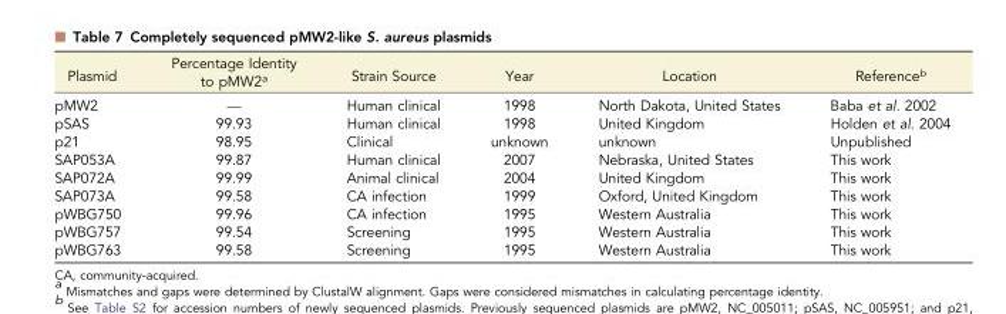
<table><thead><tr><td>Plasmid</td><td>Percentage Identity to pMW2<sup>a</sup></td><td>Strain Source</td><td>Year</td><td>Location</td><td>Reference<sup>b</sup></td></tr></thead><tbody><tr><td>pMW2</td><td>—</td><td>Human clinical</td><td>1998</td><td>North Dakota, United States</td><td>Baba et al. 2002</td></tr><tr><td>pSAS</td><td>99.93</td><td>Human clinical</td><td>1998</td><td>United Kingdom</td><td>Holden et al. 2004</td></tr><tr><td>p21</td><td>98.95</td><td>Clinical</td><td>unknown</td><td>unknown</td><td>Unpublished</td></tr><tr><td>SAP053A</td><td>99.87</td><td>Human clinical</td><td>2007</td><td>Nebraska, United States</td><td>This work</td></tr><tr><td>SAP072A</td><td>99.99</td><td>Animal clinical</td><td>2004</td><td>United Kingdom</td><td>This work</td></tr><tr><td>SAP073A</td><td>99.58</td><td>CA infection</td><td>1999</td><td>Oxford, United Kingdom</td><td>This work</td></tr><tr><td>pWBG750</td><td>99.96</td><td>CA infection</td><td>1995</td><td>Western Australia</td><td>This work</td></tr><tr><td>pWBG757</td><td>99.54</td><td>Screening</td><td>1995</td><td>Western Australia</td><td>This work</td></tr><tr><td>pWBG763</td><td>99.58</td><td>Screening</td><td>1995</td><td>Western Australia</td><td>This work</td></tr></tbody></table>